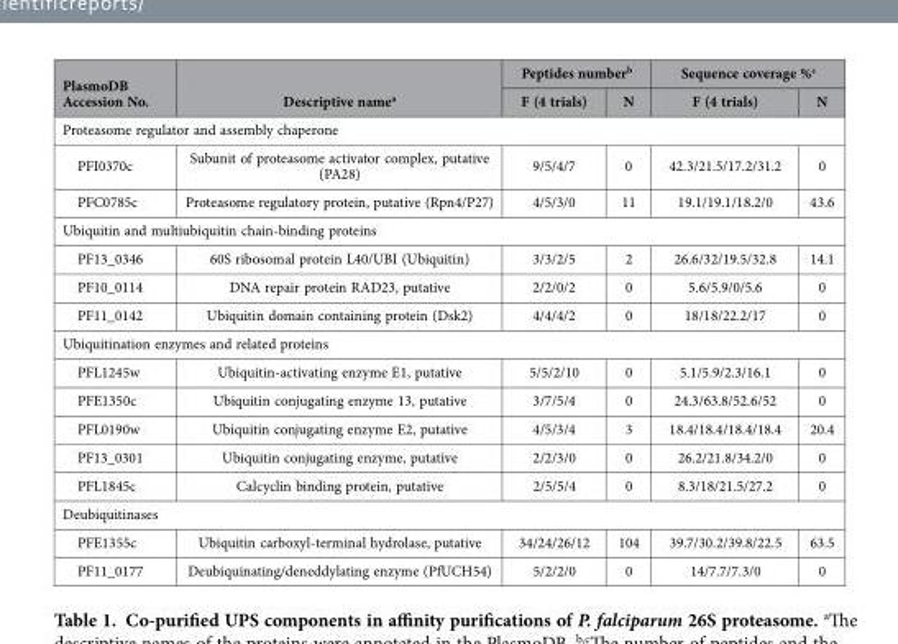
<table><thead><tr><td rowspan="2">PlasmoDB Accession No.</td><td rowspan="2">Descriptive name<sup>a</sup></td><td colspan="2">Peptides number<sup>b</sup></td><td colspan="2">Sequence coverage %<sup>c</sup></td></tr><tr><td>F (4 trials)</td><td>N</td><td>F (4 trials)</td><td>N</td></tr></thead><tbody><tr><td colspan="6">Proteasome regulator and assembly chaperone</td></tr><tr><td>PFI0370c</td><td>Subunit of proteasome activator complex, putative (PA28)</td><td>9/5/4/7</td><td>0</td><td>42.3/21.5/17.2/31.2</td><td>0</td></tr><tr><td>PFC0785c</td><td>Proteasome regulatory protein, putative (Rpn4/P27)</td><td>4/5/3/0</td><td>11</td><td>19.1/19.1/18.2/0</td><td>43.6</td></tr><tr><td colspan="6">Ubiquitin and multiubiquitin chain-binding proteins</td></tr><tr><td>PF13_0346</td><td>60S ribosomal protein L40/UBI (Ubiquitin)</td><td>3/3/2/5</td><td>2</td><td>26.6/32/19.5/32.8</td><td>14.1</td></tr><tr><td>PF10_0114</td><td>DNA repair protein RAD23, putative</td><td>2/2/0/2</td><td>0</td><td>5.6/5.9/0/5.6</td><td>0</td></tr><tr><td>PF11_0142</td><td>Ubiquitin domain containing protein (Dsk2)</td><td>4/4/4/2</td><td>0</td><td>18/18/22.2/17</td><td>0</td></tr><tr><td colspan="6">Ubiquitination enzymes and related proteins</td></tr><tr><td>PFL1245w</td><td>Ubiquitin-activating enzyme E1, putative</td><td>5/5/2/10</td><td>0</td><td>5.1/5.9/2.3/16.1</td><td>0</td></tr><tr><td>PFE1350c</td><td>Ubiquitin conjugating enzyme 13, putative</td><td>3/7/5/4</td><td>0</td><td>24.3/63.8/52.6/52</td><td>0</td></tr><tr><td>PFL0190w</td><td>Ubiquitin conjugating enzyme E2, putative</td><td>4/5/3/4</td><td>3</td><td>18.4/18.4/18.4/18.4</td><td>20.4</td></tr><tr><td>PF13_0301</td><td>Ubiquitin conjugating enzyme, putative</td><td>2/2/3/0</td><td>0</td><td>26.2/21.8/34.2/0</td><td>0</td></tr><tr><td>PFL1845c</td><td>Calcyclin binding protein, putative</td><td>2/5/5/4</td><td>0</td><td>8.3/18/21.5/27.2</td><td>0</td></tr><tr><td colspan="6">Deubiquitinases</td></tr><tr><td>PFE1355c</td><td>Ubiquitin carboxyl-terminal hydrolase, putative</td><td>34/24/26/12</td><td>104</td><td>39.7/30.2/39.8/22.5</td><td>63.5</td></tr><tr><td>PF11_0177</td><td>Deubiquinating/deneddylating enzyme (PfUCH54)</td><td>5/2/2/0</td><td>0</td><td>14/7.7/7.3/0</td><td>0</td></tr></tbody></table>